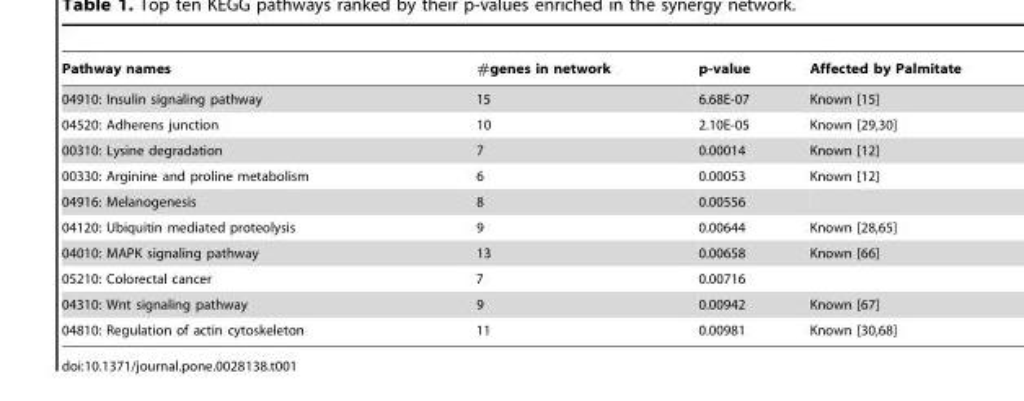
<table><thead><tr><td>Pathway names</td><td>#genes in network</td><td>p-value</td><td>Affected by Palmitate</td></tr></thead><tbody><tr><td>04910: Insulin signaling pathway</td><td>15</td><td>6.68E-07</td><td>Known [15]</td></tr><tr><td>04520: Adherens junction</td><td>10</td><td>2.10E-05</td><td>Known [29,30]</td></tr><tr><td>00310: Lysine degradation</td><td>7</td><td>0.00014</td><td>Known [12]</td></tr><tr><td>00330: Arginine and proline metabolism</td><td>6</td><td>0.00053</td><td>Known [12]</td></tr><tr><td>04916: Melanogenesis</td><td>8</td><td>0.00556</td><td></td></tr><tr><td>04120: Ubiquitin mediated proteolysis</td><td>9</td><td>0.00644</td><td>Known [28,65]</td></tr><tr><td>04010: MAPK signaling pathway</td><td>13</td><td>0.00658</td><td>Known [66]</td></tr><tr><td>05210: Colorectal cancer</td><td>7</td><td>0.00716</td><td></td></tr><tr><td>04310: Wnt signaling pathway</td><td>9</td><td>0.00942</td><td>Known [67]</td></tr><tr><td>04810: Regulation of actin cytoskeleton</td><td>11</td><td>0.00981</td><td>Known [30,68]</td></tr></tbody></table>